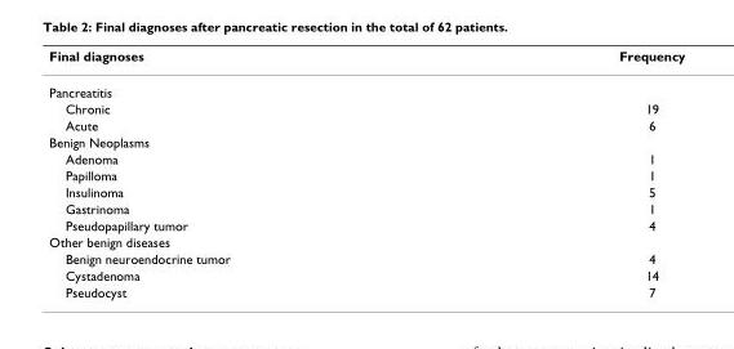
<table><thead><tr><td>Final diagnoses</td><td>Frequency</td></tr></thead><tbody><tr><td colspan="2">Pancreatitis</td></tr><tr><td>Chronic</td><td>19</td></tr><tr><td>Acute</td><td>6</td></tr><tr><td colspan="2">Benign Neoplasms</td></tr><tr><td>Adenoma</td><td>1</td></tr><tr><td>Papilloma</td><td>1</td></tr><tr><td>Insulinoma</td><td>5</td></tr><tr><td>Gastrinoma</td><td>1</td></tr><tr><td>Pseudopapillary tumor</td><td>4</td></tr><tr><td colspan="2">Other benign diseases</td></tr><tr><td>Benign neuroendocrine tumor</td><td>4</td></tr><tr><td>Cystadenoma</td><td>14</td></tr><tr><td>Pseudocyst</td><td>7</td></tr></tbody></table>